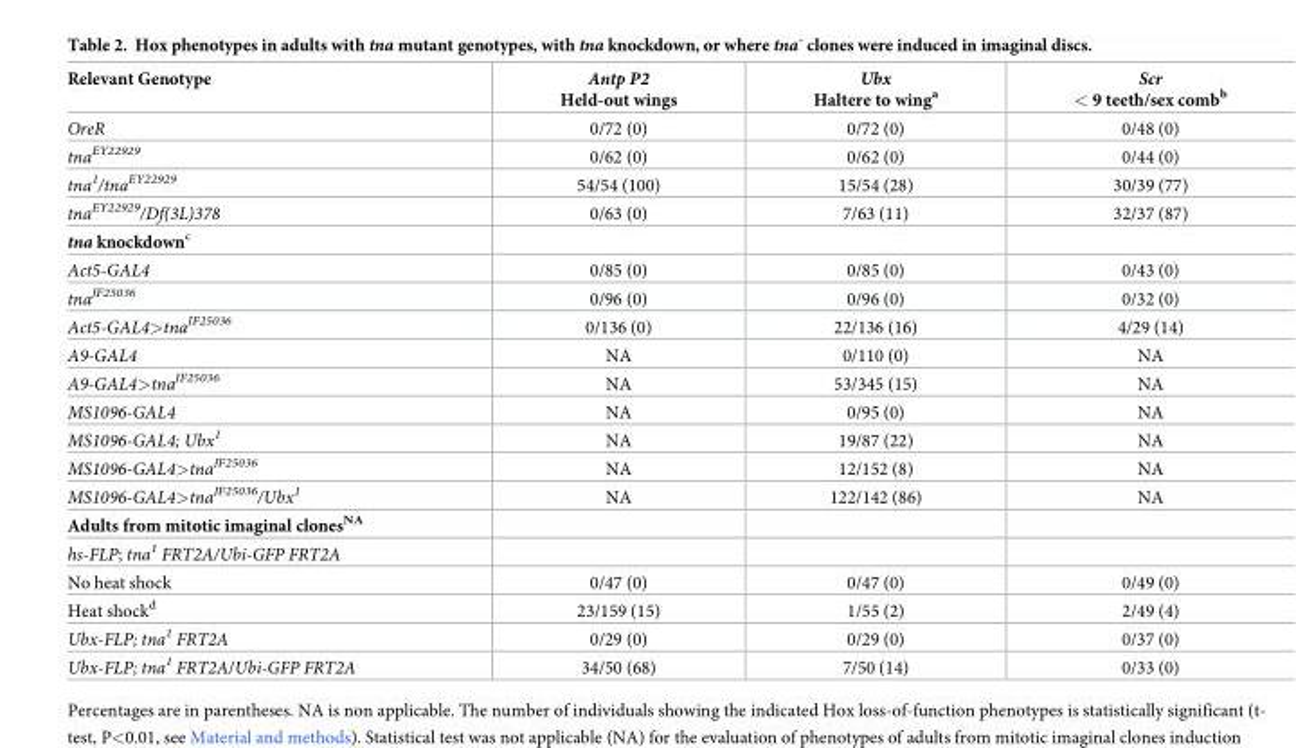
<table><thead><tr><td>Relevant Genotype</td><td>Antp P2 Held-out wings</td><td>Ubx Haltere to wing<sup>a</sup></td><td>Scr &lt; 9 teeth/sex comb<sup>b</sup></td></tr></thead><tbody><tr><td>OreR</td><td>0/72 (0)</td><td>0/72 (0)</td><td>0/48 (0)</td></tr><tr><td>tna<sup>EY22929</sup></td><td>0/62 (0)</td><td>0/62 (0)</td><td>0/44 (0)</td></tr><tr><td>tna<sup>1</sup>/tna<sup>EY22929</sup></td><td>54/54 (100)</td><td>15/54 (28)</td><td>30/39 (77)</td></tr><tr><td>tna<sup>EY22929</sup>/Df(3L)378</td><td>0/63 (0)</td><td>7/63 (11)</td><td>32/37 (87)</td></tr><tr><td colspan="4">tna knockdown<sup>c</sup></td></tr><tr><td>Act5-GAL4</td><td>0/85 (0)</td><td>0/85 (0)</td><td>0/43 (0)</td></tr><tr><td>tna<sup>JF25036</sup></td><td>0/96 (0)</td><td>0/96 (0)</td><td>0/32 (0)</td></tr><tr><td>Act5-GAL4&gt;tna<sup>JF25036</sup></td><td>0/136 (0)</td><td>22/136 (16)</td><td>4/29 (14)</td></tr><tr><td>A9-GAL4</td><td>NA</td><td>0/110 (0)</td><td>NA</td></tr><tr><td>A9-GAL4&gt;tna<sup>JF25036</sup></td><td>NA</td><td>53/345 (15)</td><td>NA</td></tr><tr><td>MS1096-GAL4</td><td>NA</td><td>0/95 (0)</td><td>NA</td></tr><tr><td>MS1096-GAL4; Ubx<sup>1</sup></td><td>NA</td><td>19/87 (22)</td><td>NA</td></tr><tr><td>MS1096-GAL4&gt;tna<sup>JF25036</sup></td><td>NA</td><td>12/152 (8)</td><td>NA</td></tr><tr><td>MS1096-GAL4&gt;tna<sup>JF25036</sup>/Ubx<sup>1</sup></td><td>NA</td><td>122/142 (86)</td><td>NA</td></tr><tr><td colspan="4">Adults from mitotic imaginal clones<sup>NA</sup></td></tr><tr><td colspan="4">hs-FLP; tna<sup>1</sup> FRT2A/Ubi-GFP FRT2A</td></tr><tr><td>No heat shock</td><td>0/47 (0)</td><td>0/47 (0)</td><td>0/49 (0)</td></tr><tr><td>Heat shock<sup>d</sup></td><td>23/159 (15)</td><td>1/55 (2)</td><td>2/49 (4)</td></tr><tr><td>Ubx-FLP; tna<sup>1</sup> FRT2A</td><td>0/29 (0)</td><td>0/29 (0)</td><td>0/37 (0)</td></tr><tr><td>Ubx-FLP; tna<sup>1</sup> FRT2A/Ubi-GFP FRT2A</td><td>34/50 (68)</td><td>7/50 (14)</td><td>0/33 (0)</td></tr></tbody></table>